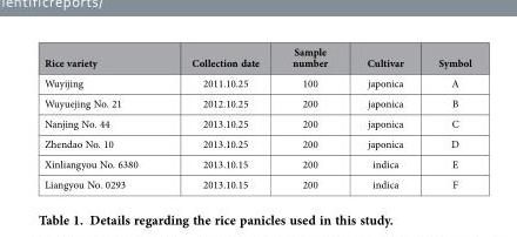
<table><thead><tr><td>Rice variety</td><td>Collection date</td><td>Sample number</td><td>Cultivar</td><td>Symbol</td></tr></thead><tbody><tr><td>Wuyijing</td><td>2011.10.25</td><td>100</td><td>japonica</td><td>A</td></tr><tr><td>Wuyuejing No. 21</td><td>2012.10.25</td><td>200</td><td>japonica</td><td>B</td></tr><tr><td>Nanjing No. 44</td><td>2013.10.25</td><td>200</td><td>japonica</td><td>C</td></tr><tr><td>Zhendao No. 10</td><td>2013.10.25</td><td>200</td><td>japonica</td><td>D</td></tr><tr><td>Xinliangyou No. 6380</td><td>2013.10.15</td><td>200</td><td>indica</td><td>E</td></tr><tr><td>Liangyou No. 0293</td><td>2013.10.15</td><td>200</td><td>indica</td><td>F</td></tr></tbody></table>